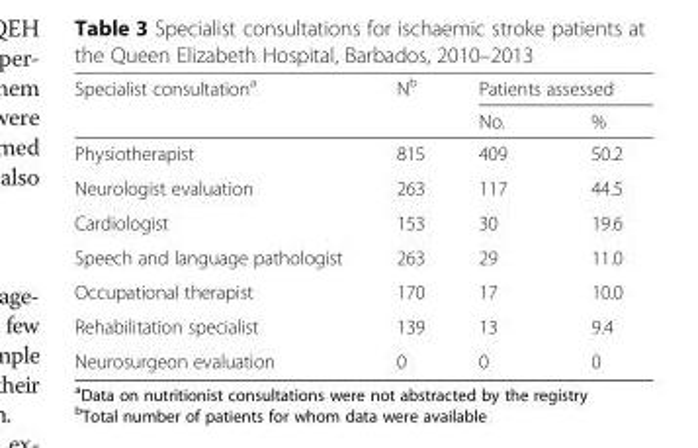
<table><thead><tr><td rowspan="2">Specialist consultation<sup>a</sup></td><td rowspan="2">N<sup>b</sup></td><td colspan="2">Patients assessed</td></tr><tr><td>No.</td><td>%</td></tr></thead><tbody><tr><td>Physiotherapist</td><td>815</td><td>409</td><td>50.2</td></tr><tr><td>Neurologist evaluation</td><td>263</td><td>117</td><td>44.5</td></tr><tr><td>Cardiologist</td><td>153</td><td>30</td><td>19.6</td></tr><tr><td>Speech and language pathologist</td><td>263</td><td>29</td><td>11.0</td></tr><tr><td>Occupational therapist</td><td>170</td><td>17</td><td>10.0</td></tr><tr><td>Rehabilitation specialist</td><td>139</td><td>13</td><td>9.4</td></tr><tr><td>Neurosurgeon evaluation</td><td>0</td><td>0</td><td>0</td></tr></tbody></table>